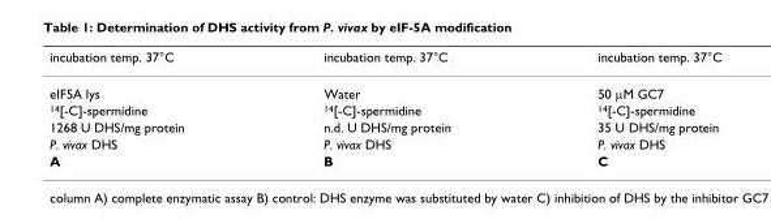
<table><thead><tr><td>incubation temp. 37°C</td><td>incubation temp. 37°C</td><td>incubation temp. 37°C</td></tr></thead><tbody><tr><td>eIF5A lys</td><td>Water</td><td>50 μM GC7</td></tr><tr><td>14[-C]-spermidine</td><td>14[-C]-spermidine</td><td>14[-C]-spermidine</td></tr><tr><td>1268 U DHS/mg protein</td><td>n.d. U DHS/mg protein</td><td>35 U DHS/mg protein</td></tr><tr><td>P. vivax DHS</td><td>P. vivax DHS</td><td>P. vivax DHS</td></tr><tr><td>A</td><td>B</td><td>C</td></tr></tbody></table>